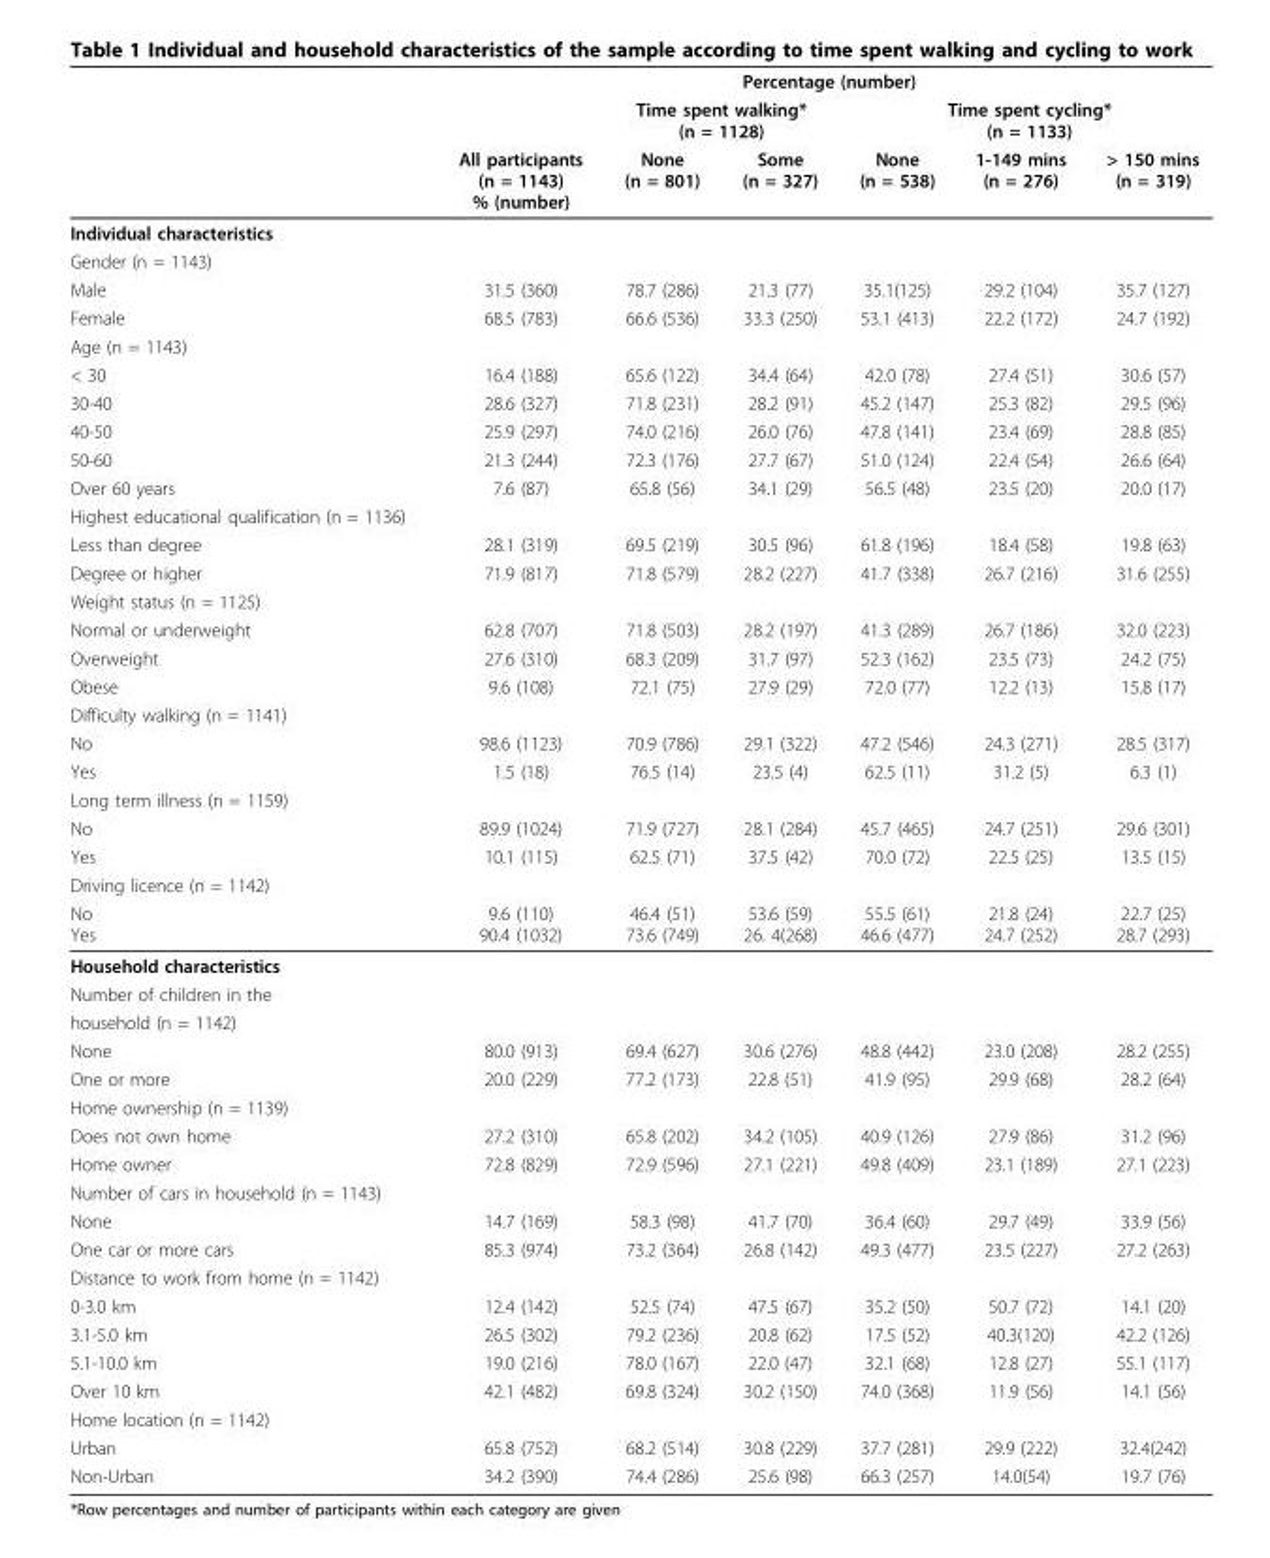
<table><thead><tr><td rowspan="3"></td><td colspan="6">Percentage (number)</td></tr><tr><td rowspan="2">All participants (n = 1143) % (number)</td><td colspan="2">Time spent walking* (n = 1128)</td><td colspan="3">Time spent cycling* (n = 1133)</td></tr><tr><td>None (n = 801)</td><td>Some (n = 327)</td><td>None (n = 538)</td><td>1-149 mins (n = 276)</td><td>&gt; 150 mins (n = 319)</td></tr></thead><tbody><tr><td colspan="7">Individual characteristics</td></tr><tr><td colspan="7">Gender (n = 1143)</td></tr><tr><td>Male</td><td>31.5 (360)</td><td>78.7 (286)</td><td>21.3 (77)</td><td>35.1(125)</td><td>29.2 (104)</td><td>35.7 (127)</td></tr><tr><td>Female</td><td>68.5 (783)</td><td>66.6 (536)</td><td>33.3 (250)</td><td>53.1 (413)</td><td>22.2 (172)</td><td>24.7 (192)</td></tr><tr><td colspan="7">Age (n = 1143)</td></tr><tr><td>&lt; 30</td><td>16.4 (188)</td><td>65.6 (122)</td><td>34.4 (64)</td><td>42.0 (78)</td><td>27.4 (51)</td><td>30.6 (57)</td></tr><tr><td>30-40</td><td>28.6 (327)</td><td>71.8 (231)</td><td>28.2 (91)</td><td>45.2 (147)</td><td>25.3 (82)</td><td>29.5 (96)</td></tr><tr><td>40-50</td><td>25.9 (297)</td><td>74.0 (216)</td><td>26.0 (76)</td><td>47.8 (141)</td><td>23.4 (69)</td><td>28.8 (85)</td></tr><tr><td>50-60</td><td>21.3 (244)</td><td>72.3 (176)</td><td>27.7 (67)</td><td>51.0 (124)</td><td>22.4 (54)</td><td>26.6 (64)</td></tr><tr><td>Over 60 years</td><td>7.6 (87)</td><td>65.8 (56)</td><td>34.1 (29)</td><td>56.5 (48)</td><td>23.5 (20)</td><td>20.0 (17)</td></tr><tr><td colspan="7">Highest educational qualification (n = 1136)</td></tr><tr><td>Less than degree</td><td>28.1 (319)</td><td>69.5 (219)</td><td>30.5 (96)</td><td>61.8 (196)</td><td>18.4 (58)</td><td>19.8 (63)</td></tr><tr><td>Degree or higher</td><td>71.9 (817)</td><td>71.8 (579)</td><td>28.2 (227)</td><td>41.7 (338)</td><td>26.7 (216)</td><td>31.6 (255)</td></tr><tr><td colspan="7">Weight status (n = 1125)</td></tr><tr><td>Normal or underweight</td><td>62.8 (707)</td><td>71.8 (503)</td><td>28.2 (197)</td><td>41.3 (289)</td><td>26.7 (186)</td><td>32.0 (223)</td></tr><tr><td>Overweight</td><td>27.6 (310)</td><td>68.3 (209)</td><td>31.7 (97)</td><td>52.3 (162)</td><td>23.5 (73)</td><td>24.2 (75)</td></tr><tr><td>Obese</td><td>9.6 (108)</td><td>72.1 (75)</td><td>27.9 (29)</td><td>72.0 (77)</td><td>12.2 (13)</td><td>15.8 (17)</td></tr><tr><td colspan="7">Difficulty walking (n = 1141)</td></tr><tr><td>No</td><td>98.6 (1123)</td><td>70.9 (786)</td><td>29.1 (322)</td><td>47.2 (546)</td><td>24.3 (271)</td><td>28.5 (317)</td></tr><tr><td>Yes</td><td>1.5 (18)</td><td>76.5 (14)</td><td>23.5 (4)</td><td>62.5 (11)</td><td>31.2 (5)</td><td>6.3 (1)</td></tr><tr><td colspan="7">Long term illness (n = 1159)</td></tr><tr><td>No</td><td>89.9 (1024)</td><td>71.9 (727)</td><td>28.1 (284)</td><td>45.7 (465)</td><td>24.7 (251)</td><td>29.6 (301)</td></tr><tr><td>Yes</td><td>10.1 (115)</td><td>62.5 (71)</td><td>37.5 (42)</td><td>70.0 (72)</td><td>22.5 (25)</td><td>13.5 (15)</td></tr><tr><td colspan="7">Driving licence (n = 1142)</td></tr><tr><td>No Yes</td><td>9.6 (110) 90.4 (1032)</td><td>46.4 (51) 73.6 (749)</td><td>53.6 (59) 26. 4(268)</td><td>55.5 (61) 46.6 (477)</td><td>21.8 (24) 24.7 (252)</td><td>22.7 (25) 28.7 (293)</td></tr><tr><td colspan="7">Household characteristics</td></tr><tr><td colspan="7">Number of children in the</td></tr><tr><td colspan="7">household (n = 1142)</td></tr><tr><td>None</td><td>80.0 (913)</td><td>69.4 (627)</td><td>30.6 (276)</td><td>48.8 (442)</td><td>23.0 (208)</td><td>28.2 (255)</td></tr><tr><td>One or more</td><td>20.0 (229)</td><td>77.2 (173)</td><td>22.8 (51)</td><td>41.9 (95)</td><td>29.9 (68)</td><td>28.2 (64)</td></tr><tr><td colspan="7">Home ownership (n = 1139)</td></tr><tr><td>Does not own home</td><td>27.2 (310)</td><td>65.8 (202)</td><td>34.2 (105)</td><td>40.9 (126)</td><td>27.9 (86)</td><td>31.2 (96)</td></tr><tr><td>Home owner</td><td>72.8 (829)</td><td>72.9 (596)</td><td>27.1 (221)</td><td>49.8 (409)</td><td>23.1 (189)</td><td>27.1 (223)</td></tr><tr><td colspan="7">Number of cars in household (n = 1143)</td></tr><tr><td>None</td><td>14.7 (169)</td><td>58.3 (98)</td><td>41.7 (70)</td><td>36.4 (60)</td><td>29.7 (49)</td><td>33.9 (56)</td></tr><tr><td>One car or more cars</td><td>85.3 (974)</td><td>73.2 (364)</td><td>26.8 (142)</td><td>49.3 (477)</td><td>23.5 (227)</td><td>27.2 (263)</td></tr><tr><td colspan="7">Distance to work from home (n = 1142)</td></tr><tr><td>0-3.0 km</td><td>12.4 (142)</td><td>52.5 (74)</td><td>47.5 (67)</td><td>35.2 (50)</td><td>50.7 (72)</td><td>14.1 (20)</td></tr><tr><td>3.1-5.0 km</td><td>26.5 (302)</td><td>79.2 (236)</td><td>20.8 (62)</td><td>17.5 (52)</td><td>40.3(120)</td><td>42.2 (126)</td></tr><tr><td>5.1-10.0 km</td><td>19.0 (216)</td><td>78.0 (167)</td><td>22.0 (47)</td><td>32.1 (68)</td><td>12.8 (27)</td><td>55.1 (117)</td></tr><tr><td>Over 10 km</td><td>42.1 (482)</td><td>69.8 (324)</td><td>30.2 (150)</td><td>74.0 (368)</td><td>11.9 (56)</td><td>14.1 (56)</td></tr><tr><td colspan="7">Home location (n = 1142)</td></tr><tr><td>Urban</td><td>65.8 (752)</td><td>68.2 (514)</td><td>30.8 (229)</td><td>37.7 (281)</td><td>29.9 (222)</td><td>32.4(242)</td></tr><tr><td>Non-Urban</td><td>34.2 (390)</td><td>74.4 (286)</td><td>25.6 (98)</td><td>66.3 (257)</td><td>14.0(54)</td><td>19.7 (76)</td></tr></tbody></table>